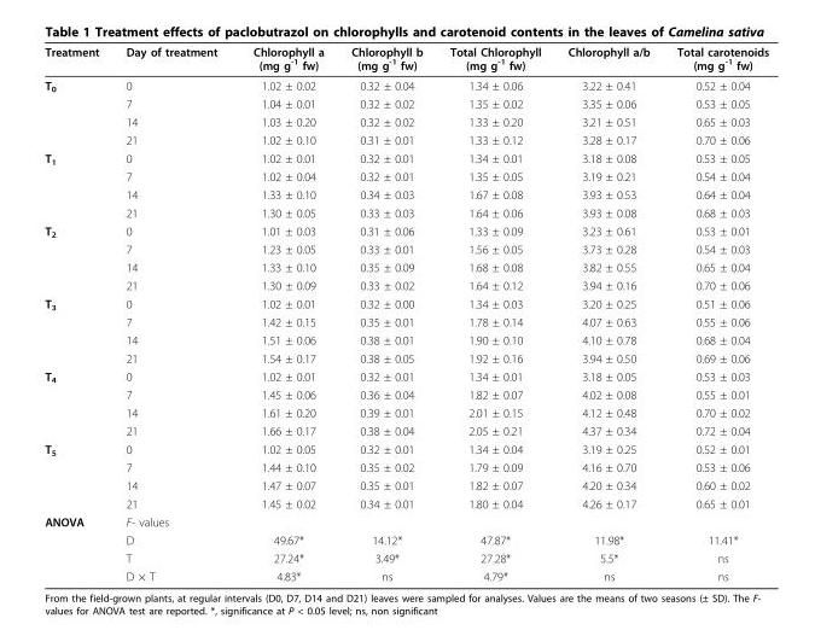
<table><thead><tr><td>Treatment</td><td>Day of treatment</td><td>Chlorophyll a (mg g<sup>-1</sup> fw)</td><td>Chlorophyll b (mg g<sup>-1</sup> fw)</td><td>Total Chlorophyll (mg g<sup>-1</sup> fw)</td><td>Chlorophyll a/b</td><td>Total carotenoids (mg g<sup>-1</sup> fw)</td></tr></thead><tbody><tr><td rowspan="4">T<sub>0</sub></td><td>0</td><td>1.02 ± 0.02</td><td>0.32 ± 0.04</td><td>1.34 ± 0.06</td><td>3.22 ± 0.41</td><td>0.52 ± 0.04</td></tr><tr><td>7</td><td>1.04 ± 0.01</td><td>0.32 ± 0.02</td><td>1.35 ± 0.02</td><td>3.35 ± 0.06</td><td>0.53 ± 0.05</td></tr><tr><td>14</td><td>1.03 ± 0.20</td><td>0.32 ± 0.02</td><td>1.33 ± 0.20</td><td>3.21 ± 0.51</td><td>0.65 ± 0.03</td></tr><tr><td>21</td><td>1.02 ± 0.10</td><td>0.31 ± 0.01</td><td>1.33 ± 0.12</td><td>3.28 ± 0.17</td><td>0.70 ± 0.06</td></tr><tr><td rowspan="4">T<sub>1</sub></td><td>0</td><td>1.02 ± 0.01</td><td>0.32 ± 0.01</td><td>1.34 ± 0.01</td><td>3.18 ± 0.08</td><td>0.53 ± 0.05</td></tr><tr><td>7</td><td>1.02 ± 0.04</td><td>0.32 ± 0.01</td><td>1.35 ± 0.05</td><td>3.19 ± 0.21</td><td>0.54 ± 0.04</td></tr><tr><td>14</td><td>1.33 ± 0.10</td><td>0.34 ± 0.03</td><td>1.67 ± 0.08</td><td>3.93 ± 0.53</td><td>0.64 ± 0.04</td></tr><tr><td>21</td><td>1.30 ± 0.05</td><td>0.33 ± 0.03</td><td>1.64 ± 0.06</td><td>3.93 ± 0.08</td><td>0.68 ± 0.03</td></tr><tr><td rowspan="4">T<sub>2</sub></td><td>0</td><td>1.01 ± 0.03</td><td>0.31 ± 0.06</td><td>1.33 ± 0.09</td><td>3.23 ± 0.61</td><td>0.53 ± 0.01</td></tr><tr><td>7</td><td>1.23 ± 0.05</td><td>0.33 ± 0.01</td><td>1.56 ± 0.05</td><td>3.73 ± 0.28</td><td>0.54 ± 0.03</td></tr><tr><td>14</td><td>1.33 ± 0.10</td><td>0.35 ± 0.09</td><td>1.68 ± 0.08</td><td>3.82 ± 0.55</td><td>0.65 ± 0.04</td></tr><tr><td>21</td><td>1.30 ± 0.09</td><td>0.33 ± 0.02</td><td>1.64 ± 0.12</td><td>3.94 ± 0.16</td><td>0.70 ± 0.06</td></tr><tr><td rowspan="4">T<sub>3</sub></td><td>0</td><td>1.02 ± 0.01</td><td>0.32 ± 0.00</td><td>1.34 ± 0.03</td><td>3.20 ± 0.25</td><td>0.51 ± 0.06</td></tr><tr><td>7</td><td>1.42 ± 0.15</td><td>0.35 ± 0.01</td><td>1.78 ± 0.14</td><td>4.07 ± 0.63</td><td>0.55 ± 0.06</td></tr><tr><td>14</td><td>1.51 ± 0.06</td><td>0.38 ± 0.01</td><td>1.90 ± 0.10</td><td>4.10 ± 0.78</td><td>0.68 ± 0.04</td></tr><tr><td>21</td><td>1.54 ± 0.17</td><td>0.38 ± 0.05</td><td>1.92 ± 0.16</td><td>3.94 ± 0.50</td><td>0.69 ± 0.06</td></tr><tr><td rowspan="4">T<sub>4</sub></td><td>0</td><td>1.02 ± 0.01</td><td>0.32 ± 0.01</td><td>1.34 ± 0.01</td><td>3.18 ± 0.05</td><td>0.53 ± 0.03</td></tr><tr><td>7</td><td>1.45 ± 0.06</td><td>0.36 ± 0.04</td><td>1.82 ± 0.07</td><td>4.02 ± 0.08</td><td>0.55 ± 0.01</td></tr><tr><td>14</td><td>1.61 ± 0.20</td><td>0.39 ± 0.01</td><td>2.01 ± 0.15</td><td>4.12 ± 0.48</td><td>0.70 ± 0.02</td></tr><tr><td>21</td><td>1.66 ± 0.17</td><td>0.38 ± 0.04</td><td>2.05 ± 0.21</td><td>4.37 ± 0.34</td><td>0.72 ± 0.04</td></tr><tr><td rowspan="4">T<sub>5</sub></td><td>0</td><td>1.02 ± 0.05</td><td>0.32 ± 0.01</td><td>1.34 ± 0.04</td><td>3.19 ± 0.25</td><td>0.52 ± 0.01</td></tr><tr><td>7</td><td>1.44 ± 0.10</td><td>0.35 ± 0.02</td><td>1.79 ± 0.09</td><td>4.16 ± 0.70</td><td>0.53 ± 0.06</td></tr><tr><td>14</td><td>1.47 ± 0.07</td><td>0.35 ± 0.01</td><td>1.82 ± 0.07</td><td>4.20 ± 0.34</td><td>0.60 ± 0.02</td></tr><tr><td>21</td><td>1.45 ± 0.02</td><td>0.34 ± 0.01</td><td>1.80 ± 0.04</td><td>4.26 ± 0.17</td><td>0.65 ± 0.01</td></tr><tr><td rowspan="4">ANOVA</td><td>F- values</td><td></td><td></td><td></td><td></td><td></td></tr><tr><td>D</td><td>49.67*</td><td>14.12*</td><td>47.87*</td><td>11.98*</td><td>11.41*</td></tr><tr><td>T</td><td>27.24*</td><td>3.49*</td><td>27.28*</td><td>5.5*</td><td>ns</td></tr><tr><td>D × T</td><td>4.83*</td><td>ns</td><td>4.79*</td><td>ns</td><td>ns</td></tr></tbody></table>